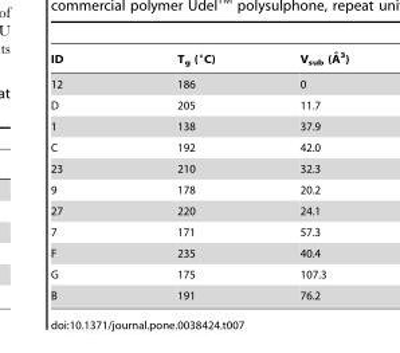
<table><thead><tr><td>ID</td><td>T<sub>g</sub> (°C)</td><td>Vsub (A˚ 3)</td></tr></thead><tbody><tr><td>12</td><td>186</td><td>0</td></tr><tr><td>D</td><td>205</td><td>11.7</td></tr><tr><td>1</td><td>138</td><td>37.9</td></tr><tr><td>C</td><td>192</td><td>42.0</td></tr><tr><td>23</td><td>210</td><td>32.3</td></tr><tr><td>9</td><td>178</td><td>20.2</td></tr><tr><td>27</td><td>220</td><td>24.1</td></tr><tr><td>7</td><td>171</td><td>57.3</td></tr><tr><td>F</td><td>235</td><td>40.4</td></tr><tr><td>G</td><td>175</td><td>107.3</td></tr><tr><td>B</td><td>191</td><td>76.2</td></tr></tbody></table>